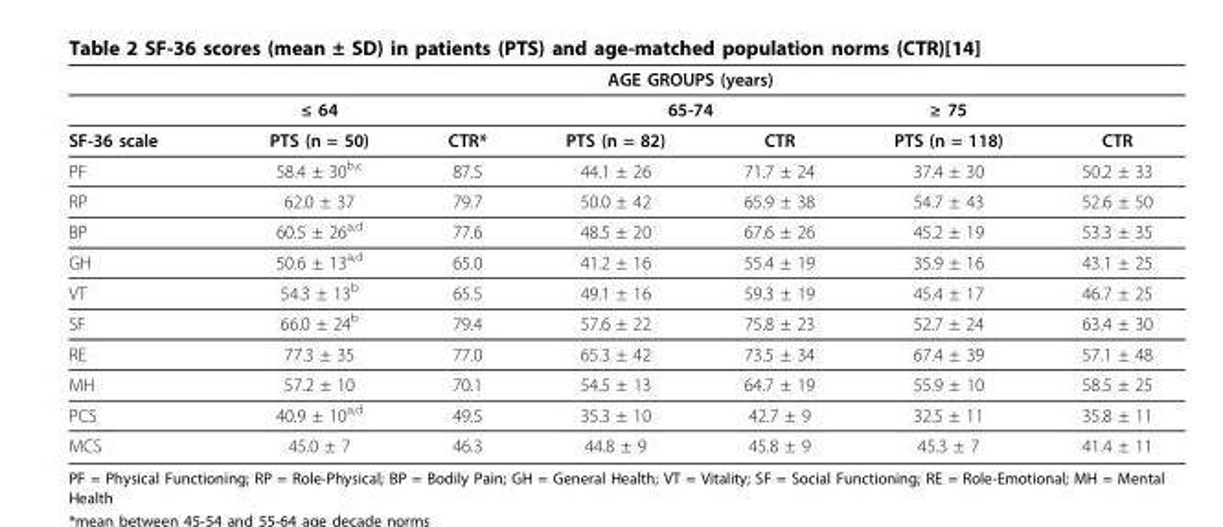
<table><thead><tr><td rowspan="3">SF-36 scale</td><td rowspan="3">≤ 64 PTS (n = 50)</td><td rowspan="3">CTR*</td><td rowspan="2" colspan="2">AGE GROUPS (years) 65-74</td><td rowspan="3">≥ 75 PTS (n = 118)</td><td rowspan="3">CTR</td></tr><tr></tr><tr><td>PTS (n = 82)</td><td>CTR</td></tr></thead><tbody><tr><td>PF</td><td>58.4 ± 30b,c</td><td>87.5</td><td>44.1 ± 26</td><td>71.7 ± 24</td><td>37.4 ± 30</td><td>50.2 ± 33</td></tr><tr><td>RP</td><td>62.0 ± 37</td><td>79.7</td><td>50.0 ± 42</td><td>65.9 ± 38</td><td>54.7 ± 43</td><td>52.6 ± 50</td></tr><tr><td>BP</td><td>60.5 ± 26a,d</td><td>77.6</td><td>48.5 ± 20</td><td>67.6 ± 26</td><td>45.2 ± 19</td><td>53.3 ± 35</td></tr><tr><td>GH</td><td>50.6 ± 13a,d</td><td>65.0</td><td>41.2 ± 16</td><td>55.4 ± 19</td><td>35.9 ± 16</td><td>43.1 ± 25</td></tr><tr><td>VT</td><td>54.3 ± 13b</td><td>65.5</td><td>49.1 ± 16</td><td>59.3 ± 19</td><td>45.4 ± 17</td><td>46.7 ± 25</td></tr><tr><td>SF</td><td>66.0 ± 24b</td><td>79.4</td><td>57.6 ± 22</td><td>75.8 ± 23</td><td>52.7 ± 24</td><td>63.4 ± 30</td></tr><tr><td>RE</td><td>77.3 ± 35</td><td>77.0</td><td>65.3 ± 42</td><td>73.5 ± 34</td><td>67.4 ± 39</td><td>57.1 ± 48</td></tr><tr><td>MH</td><td>57.2 ± 10</td><td>70.1</td><td>54.5 ± 13</td><td>64.7 ± 19</td><td>55.9 ± 10</td><td>58.5 ± 25</td></tr><tr><td>PCS</td><td>40.9 ± 10a,d</td><td>49.5</td><td>35.3 ± 10</td><td>42.7 ± 9</td><td>32.5 ± 11</td><td>35.8 ± 11</td></tr><tr><td>MCS</td><td>45.0 ± 7</td><td>46.3</td><td>44.8 ± 9</td><td>45.8 ± 9</td><td>45.3 ± 7</td><td>41.4 ± 11</td></tr></tbody></table>